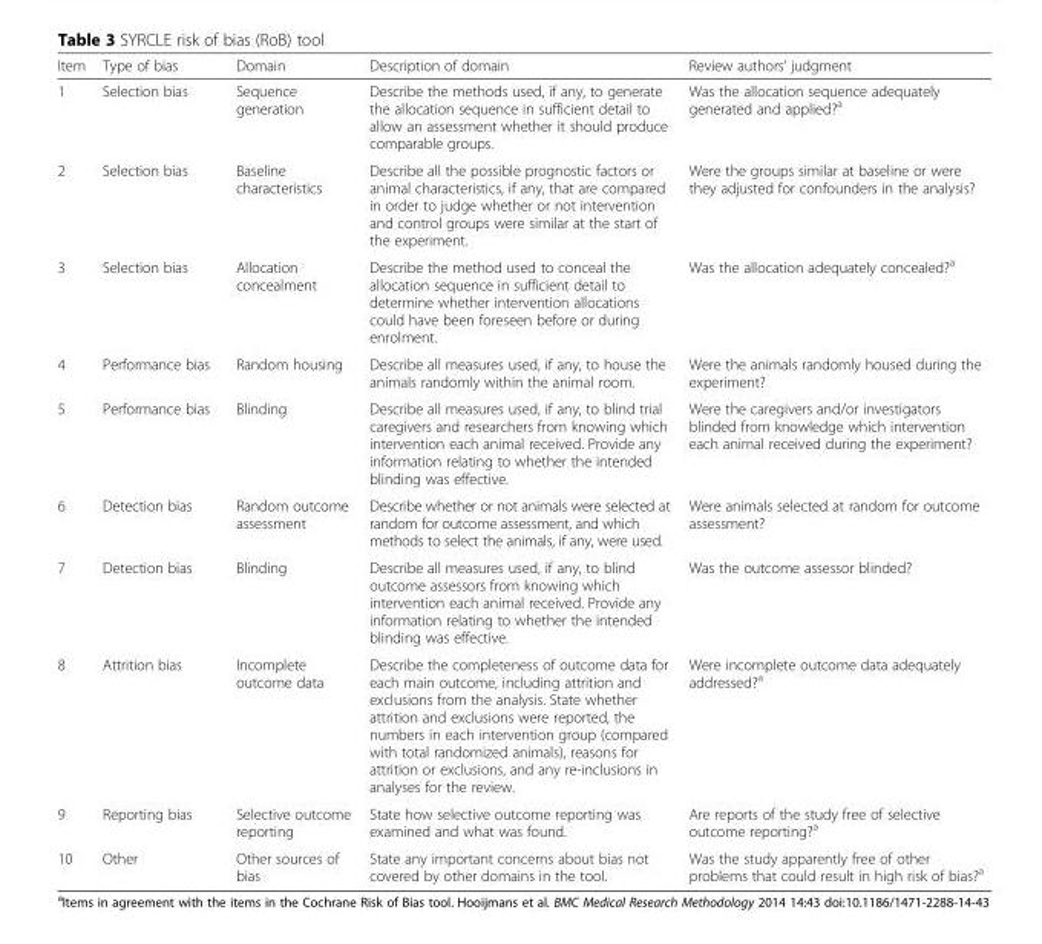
<table><thead><tr><td>Item</td><td>Type of bias</td><td>Domain</td><td>Description of domain</td><td>Review authors’ judgment</td></tr></thead><tbody><tr><td>1</td><td>Selection bias</td><td>Sequence generation</td><td>Describe the methods used, if any, to generate the allocation sequence in sufficient detail to allow an assessment whether it should produce comparable groups.</td><td>Was the allocation sequence adequately generated and applied?<sup>a</sup></td></tr><tr><td>2</td><td>Selection bias</td><td>Baseline characteristics</td><td>Describe all the possible prognostic factors or animal characteristics, if any, that are compared in order to judge whether or not intervention and control groups were similar at the start of the experiment.</td><td>Were the groups similar at baseline or were they adjusted for confounders in the analysis?</td></tr><tr><td>3</td><td>Selection bias</td><td>Allocation concealment</td><td>Describe the method used to conceal the allocation sequence in sufficient detail to determine whether intervention allocations could have been foreseen before or during enrolment.</td><td>Was the allocation adequately concealed?<sup>a</sup></td></tr><tr><td>4</td><td>Performance bias</td><td>Random housing</td><td>Describe all measures used, if any, to house the animals randomly within the animal room.</td><td>Were the animals randomly housed during the experiment?</td></tr><tr><td>5</td><td>Performance bias</td><td>Blinding</td><td>Describe all measures used, if any, to blind trial caregivers and researchers from knowing which intervention each animal received. Provide any information relating to whether the intended blinding was effective.</td><td>Were the caregivers and/or investigators blinded from knowledge which intervention each animal received during the experiment?</td></tr><tr><td>6</td><td>Detection bias</td><td>Random outcome assessment</td><td>Describe whether or not animals were selected at random for outcome assessment, and which methods to select the animals, if any, were used.</td><td>Were animals selected at random for outcome assessment?</td></tr><tr><td>7</td><td>Detection bias</td><td>Blinding</td><td>Describe all measures used, if any, to blind outcome assessors from knowing which intervention each animal received. Provide any information relating to whether the intended blinding was effective.</td><td>Was the outcome assessor blinded?</td></tr><tr><td>8</td><td>Attrition bias</td><td>Incomplete outcome data</td><td>Describe the completeness of outcome data for each main outcome, including attrition and exclusions from the analysis. State whether attrition and exclusions were reported, the numbers in each intervention group (compared with total randomized animals), reasons for attrition or exclusions, and any re-inclusions in analyses for the review.</td><td>Were incomplete outcome data adequately addressed?<sup>a</sup></td></tr><tr><td>9</td><td>Reporting bias</td><td>Selective outcome reporting</td><td>State how selective outcome reporting was examined and what was found.</td><td>Are reports of the study free of selective outcome reporting?<sup>a</sup></td></tr><tr><td>10</td><td>Other</td><td>Other sources of bias</td><td>State any important concerns about bias not covered by other domains in the tool.</td><td>Was the study apparently free of other problems that could result in high risk of bias?<sup>a</sup></td></tr></tbody></table>